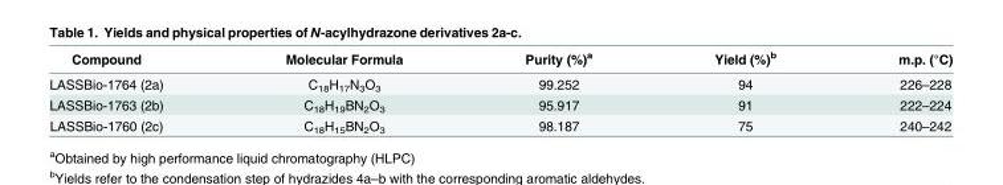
<table><thead><tr><td>Compound</td><td>Molecular Formula</td><td>Purity (%)<sup>a</sup></td><td>Yield (%)<sup>b</sup></td><td>m.p. (°C)</td></tr></thead><tbody><tr><td>LASSBio-1764 (2a)</td><td>C<sub>18</sub>H<sub>17</sub>N<sub>3</sub>O<sub>3</sub></td><td>99.252</td><td>94</td><td>226–228</td></tr><tr><td>LASSBio-1763 (2b)</td><td>C<sub>18</sub>H<sub>19</sub>BN<sub>2</sub>O<sub>3</sub></td><td>95.917</td><td>91</td><td>222–224</td></tr><tr><td>LASSBio-1760 (2c)</td><td>C<sub>18</sub>H<sub>15</sub>BN<sub>2</sub>O<sub>3</sub></td><td>98.187</td><td>75</td><td>240–242</td></tr></tbody></table>